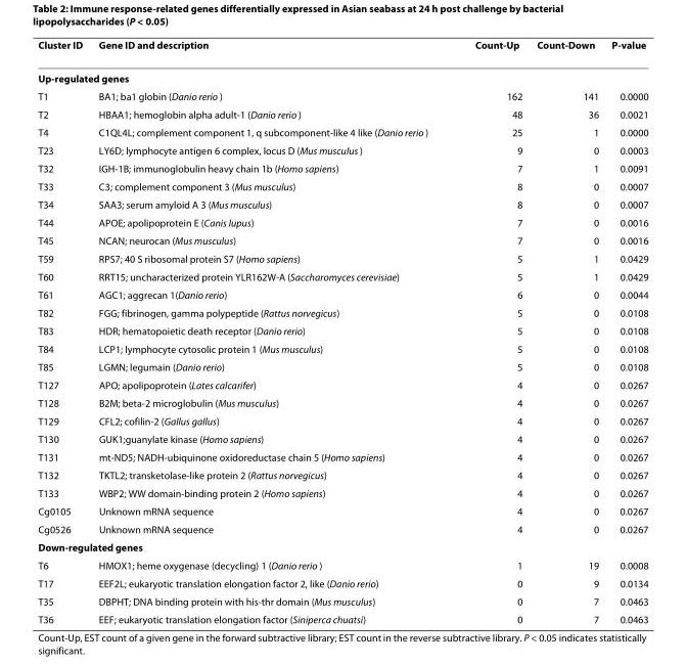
<table><thead><tr><td>Cluster ID</td><td>Gene ID and description</td><td>Count-Up</td><td>Count-Down</td><td>P-value</td></tr></thead><tbody><tr><td colspan="5">Up-regulated genes</td></tr><tr><td>T1</td><td>BA1; ba1 globin (Danio rerio )</td><td>162</td><td>141</td><td>0.0000</td></tr><tr><td>T2</td><td>HBAA1; hemoglobin alpha adult-1 (Danio rerio )</td><td>48</td><td>36</td><td>0.0021</td></tr><tr><td>T4</td><td>C1QL4L; complement component 1, q subcomponent-like 4 like (Danio rerio )</td><td>25</td><td>1</td><td>0.0000</td></tr><tr><td>T23</td><td>LY6D; lymphocyte antigen 6 complex, locus D (Mus musculus )</td><td>9</td><td>0</td><td>0.0003</td></tr><tr><td>T32</td><td>IGH-1B; immunoglobulin heavy chain 1b (Homo sapiens)</td><td>7</td><td>1</td><td>0.0091</td></tr><tr><td>T33</td><td>C3; complement component 3 (Mus musculus)</td><td>8</td><td>0</td><td>0.0007</td></tr><tr><td>T34</td><td>SAA3; serum amyloid A 3 (Mus musculus)</td><td>8</td><td>0</td><td>0.0007</td></tr><tr><td>T44</td><td>APOE; apolipoprotein E (Canis lupus)</td><td>7</td><td>0</td><td>0.0016</td></tr><tr><td>T45</td><td>NCAN; neurocan (Mus musculus)</td><td>7</td><td>0</td><td>0.0016</td></tr><tr><td>T59</td><td>RPS7; 40 S ribosomal protein S7 (Homo sapiens)</td><td>5</td><td>1</td><td>0.0429</td></tr><tr><td>T60</td><td>RRT15; uncharacterized protein YLR162W-A (Saccharomyces cerevisiae)</td><td>5</td><td>1</td><td>0.0429</td></tr><tr><td>T61</td><td>AGC1; aggrecan 1(Danio rerio)</td><td>6</td><td>0</td><td>0.0044</td></tr><tr><td>T82</td><td>FGG; fibrinogen, gamma polypeptide (Rattus norvegicus)</td><td>5</td><td>0</td><td>0.0108</td></tr><tr><td>T83</td><td>HDR; hematopoietic death receptor (Danio rerio)</td><td>5</td><td>0</td><td>0.0108</td></tr><tr><td>T84</td><td>LCP1; lymphocyte cytosolic protein 1 (Mus musculus)</td><td>5</td><td>0</td><td>0.0108</td></tr><tr><td>T85</td><td>LGMN; legumain (Danio rerio)</td><td>5</td><td>0</td><td>0.0108</td></tr><tr><td>T127</td><td>APO; apolipoprotein (Lates calcarifer)</td><td>4</td><td>0</td><td>0.0267</td></tr><tr><td>T128</td><td>B2M; beta-2 microglobulin (Mus musculus)</td><td>4</td><td>0</td><td>0.0267</td></tr><tr><td>T129</td><td>CFL2; cofilin-2 (Gallus gallus)</td><td>4</td><td>0</td><td>0.0267</td></tr><tr><td>T130</td><td>GUK1;guanylate kinase (Homo sapiens)</td><td>4</td><td>0</td><td>0.0267</td></tr><tr><td>T131</td><td>mt-ND5; NADH-ubiquinone oxidoreductase chain 5 (Homo sapiens)</td><td>4</td><td>0</td><td>0.0267</td></tr><tr><td>T132</td><td>TKTL2; transketolase-like protein 2 (Rattus norvegicus)</td><td>4</td><td>0</td><td>0.0267</td></tr><tr><td>T133</td><td>WBP2; WW domain-binding protein 2 (Homo sapiens)</td><td>4</td><td>0</td><td>0.0267</td></tr><tr><td>Cg0105</td><td>Unknown mRNA sequence</td><td>4</td><td>0</td><td>0.0267</td></tr><tr><td>Cg0526</td><td>Unknown mRNA sequence</td><td>4</td><td>0</td><td>0.0267</td></tr><tr><td colspan="5">Down-regulated genes</td></tr><tr><td>T6</td><td>HMOX1; heme oxygenase (decycling) 1 (Danio rerio )</td><td>1</td><td>19</td><td>0.0008</td></tr><tr><td>T17</td><td>EEF2L; eukaryotic translation elongation factor 2, like (Danio rerio)</td><td>0</td><td>9</td><td>0.0134</td></tr><tr><td>T35</td><td>DBPHT; DNA binding protein with his-thr domain (Mus musculus)</td><td>0</td><td>7</td><td>0.0463</td></tr><tr><td>T36</td><td>EEF; eukaryotic translation elongation factor (Siniperca chuatsi)</td><td>0</td><td>7</td><td>0.0463</td></tr></tbody></table>